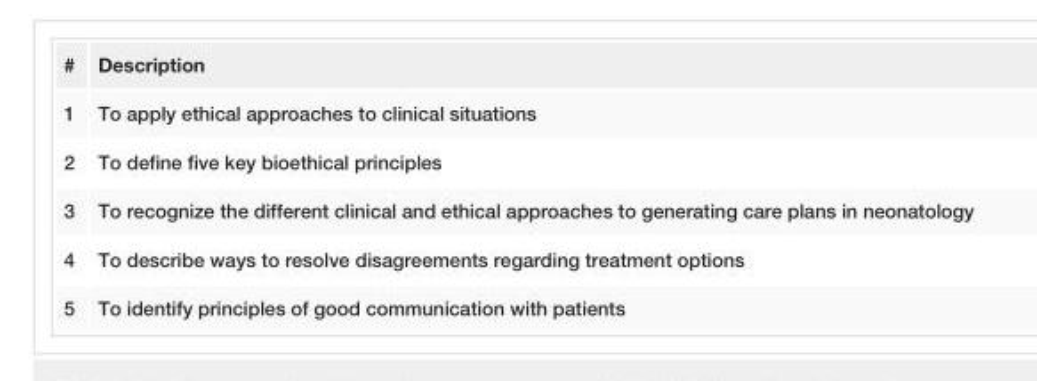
<table><tbody><tr><td>#</td><td>Description</td></tr><tr><td>1</td><td>To apply ethical approaches to clinical situations</td></tr><tr><td>2</td><td>To define five key bioethical principles</td></tr><tr><td>3</td><td>To recognize the different clinical and ethical approaches to generating care plans in neonatology</td></tr><tr><td>4</td><td>To describe ways to resolve disagreements regarding treatment options</td></tr><tr><td>5</td><td>To identify principles of good communication with patients</td></tr></tbody></table>